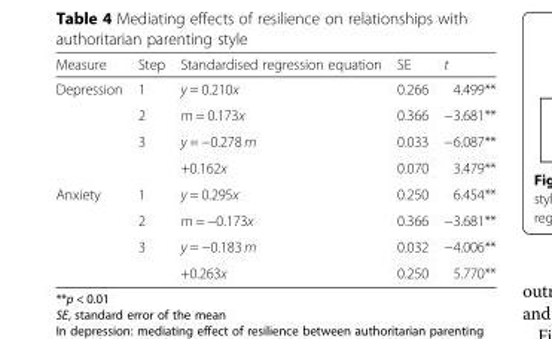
<table><thead><tr><td>Measure</td><td>Step</td><td>Standardised regression equation</td><td>SE</td><td>t</td></tr></thead><tbody><tr><td rowspan="4">Depression</td><td>1</td><td>y = 0.210x</td><td>0.266</td><td>4.499**</td></tr><tr><td>2</td><td>m = 0.173x</td><td>0.366</td><td>−3.681**</td></tr><tr><td>3</td><td>y = −0.278 m</td><td>0.033</td><td>−6.087**</td></tr><tr><td></td><td>+0.162x</td><td>0.070</td><td>3.479**</td></tr><tr><td rowspan="4">Anxiety</td><td>1</td><td>y = 0.295x</td><td>0.250</td><td>6.454**</td></tr><tr><td>2</td><td>m = −0.173x</td><td>0.366</td><td>−3.681**</td></tr><tr><td>3</td><td>y = −0.183 m</td><td>0.032</td><td>−4.006**</td></tr><tr><td></td><td>+0.263x</td><td>0.250</td><td>5.770**</td></tr></tbody></table>